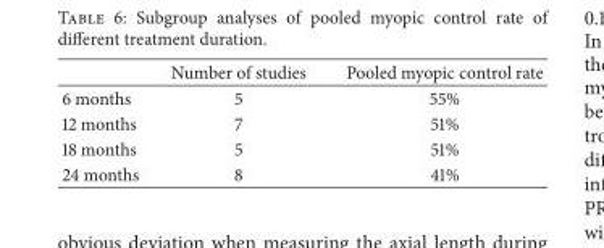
<table><thead><tr><td></td><td>Number of studies</td><td>Pooled myopic control rate</td></tr></thead><tbody><tr><td>6 months</td><td>5</td><td>55%</td></tr><tr><td>12 months</td><td>7</td><td>51%</td></tr><tr><td>18 months</td><td>5</td><td>51%</td></tr><tr><td>24 months</td><td>8</td><td>41%</td></tr></tbody></table>